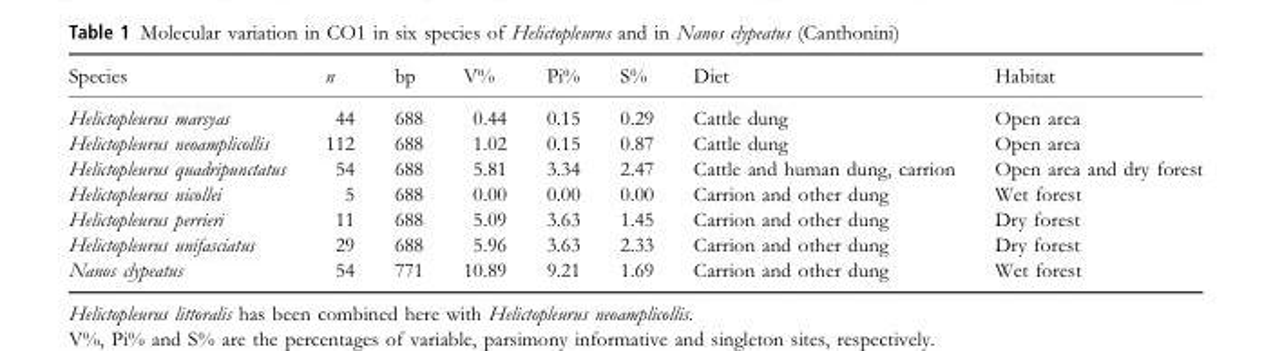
<table><thead><tr><td>Species</td><td>n</td><td>bp</td><td>V%</td><td>Pi%</td><td>S%</td><td>Diet</td><td>Habitat</td></tr></thead><tbody><tr><td>Helictopleurus marsyas</td><td>44</td><td>688</td><td>0.44</td><td>0.15</td><td>0.29</td><td>Cattle dung</td><td>Open area</td></tr><tr><td>Helictopleurus neoamplicollis</td><td>112</td><td>688</td><td>1.02</td><td>0.15</td><td>0.87</td><td>Cattle dung</td><td>Open area</td></tr><tr><td>Helictopleurus quadripunctatus</td><td>54</td><td>688</td><td>5.81</td><td>3.34</td><td>2.47</td><td>Cattle and human dung, carrion</td><td>Open area and dry forest</td></tr><tr><td>Helictopleurus nicollei</td><td>5</td><td>688</td><td>0.00</td><td>0.00</td><td>0.00</td><td>Carrion and other dung</td><td>Wet forest</td></tr><tr><td>Helictopleurus perrieri</td><td>11</td><td>688</td><td>5.09</td><td>3.63</td><td>1.45</td><td>Carrion and other dung</td><td>Dry forest</td></tr><tr><td>Helictopleurus unifasciatus</td><td>29</td><td>688</td><td>5.96</td><td>3.63</td><td>2.33</td><td>Carrion and other dung</td><td>Dry forest</td></tr><tr><td>Nanos clypeatus</td><td>54</td><td>771</td><td>10.89</td><td>9.21</td><td>1.69</td><td>Carrion and other dung</td><td>Wet forest</td></tr></tbody></table>